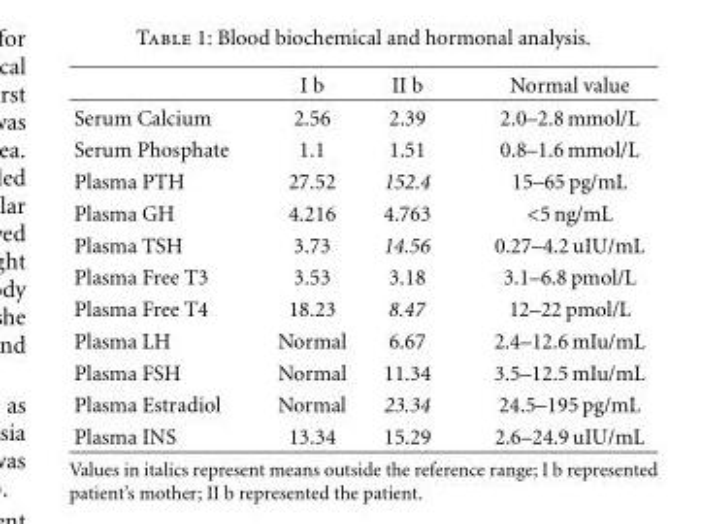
<table><thead><tr><td></td><td>I b</td><td>II b</td><td>Normal value</td></tr></thead><tbody><tr><td>Serum Calcium</td><td>2.56</td><td>2.39</td><td>2.0–2.8 mmol/L</td></tr><tr><td>Serum Phosphate</td><td>1.1</td><td>1.51</td><td>0.8–1.6 mmol/L</td></tr><tr><td>Plasma PTH</td><td>27.52</td><td>152.4</td><td>15–65 pg/mL</td></tr><tr><td>Plasma GH</td><td>4.216</td><td>4.763</td><td>&lt;5 ng/mL</td></tr><tr><td>Plasma TSH</td><td>3.73</td><td>14.56</td><td>0.27–4.2 uIU/mL</td></tr><tr><td>Plasma Free T3</td><td>3.53</td><td>3.18</td><td>3.1–6.8 pmol/L</td></tr><tr><td>Plasma Free T4</td><td>18.23</td><td>8.47</td><td>12–22 pmol/L</td></tr><tr><td>Plasma LH</td><td>Normal</td><td>6.67</td><td>2.4–12.6 mIu/mL</td></tr><tr><td>Plasma FSH</td><td>Normal</td><td>11.34</td><td>3.5–12.5 mIu/mL</td></tr><tr><td>Plasma Estradiol</td><td>Normal</td><td>23.34</td><td>24.5–195 pg/mL</td></tr><tr><td>Plasma INS</td><td>13.34</td><td>15.29</td><td>2.6–24.9 uIU/mL</td></tr></tbody></table>